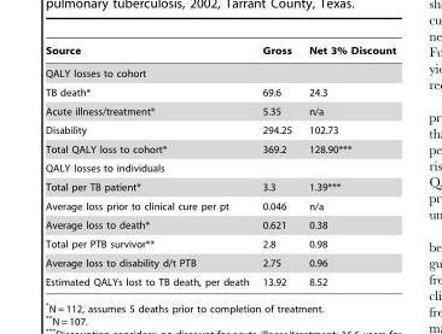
<table><thead><tr><td>Source</td><td>Gross</td><td>Net 3% Discount</td></tr></thead><tbody><tr><td colspan="3">QALY losses to cohort</td></tr><tr><td>TB death*</td><td>69.6</td><td>24.3</td></tr><tr><td>Acute illness/treatment*</td><td>5.35</td><td>n/a</td></tr><tr><td>Disability</td><td>294.25</td><td>102.73</td></tr><tr><td>Total QALY loss to cohort*</td><td>369.2</td><td>128.90***</td></tr><tr><td colspan="3">QALY losses to individuals</td></tr><tr><td>Total per TB patient*</td><td>3.3</td><td>1.39***</td></tr><tr><td>Average loss prior to clinical cure per pt</td><td>0.046</td><td>n/a</td></tr><tr><td>Average loss to death*</td><td>0.621</td><td>0.38</td></tr><tr><td>Total per PTB survivor**</td><td>2.8</td><td>0.98</td></tr><tr><td>Average loss to disability d/t PTB</td><td>2.75</td><td>0.96</td></tr><tr><td>Estimated QALYs lost to TB death, per death</td><td>13.92</td><td>8.52</td></tr></tbody></table>